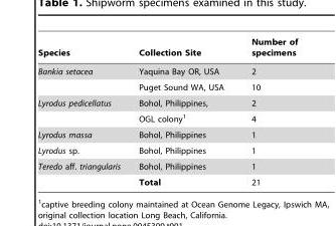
<table><thead><tr><td>Species</td><td>Collection Site</td><td>Number of specimens</td></tr></thead><tbody><tr><td rowspan="2">Bankia setacea</td><td>Yaquina Bay OR, USA</td><td>2</td></tr><tr><td>Puget Sound WA, USA</td><td>10</td></tr><tr><td rowspan="2">Lyrodus pedicellatus</td><td>Bohol, Philippines,</td><td>2</td></tr><tr><td>OGL colony<sup>1</sup></td><td>4</td></tr><tr><td>Lyrodus massa</td><td>Bohol, Philippines</td><td>1</td></tr><tr><td>Lyrodus sp.</td><td>Bohol, Philippines</td><td>1</td></tr><tr><td rowspan="2">Teredo aff. triangularis</td><td>Bohol, Philippines</td><td>1</td></tr><tr><td>Total</td><td>21</td></tr></tbody></table>